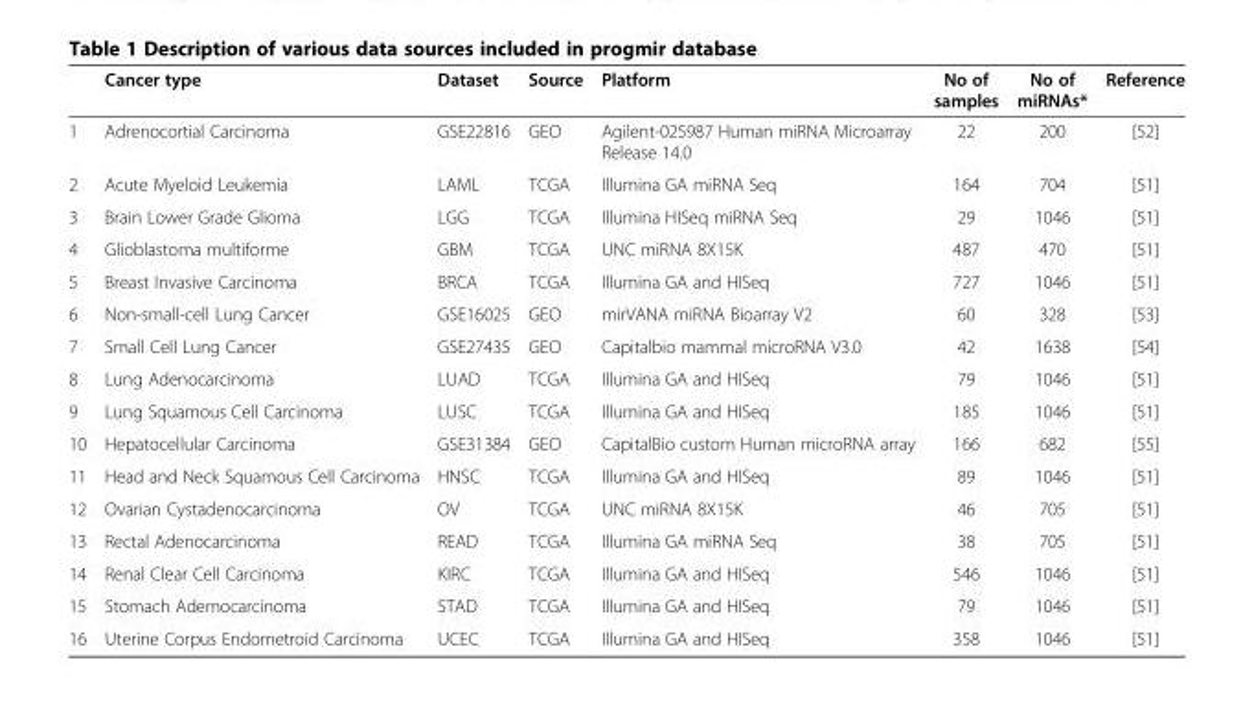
<table><thead><tr><td></td><td>Cancer type</td><td>Dataset</td><td>Source</td><td>Platform</td><td>No of samples</td><td>No of miRNAs*</td><td>Reference</td></tr></thead><tbody><tr><td>1</td><td>Adrenocortial Carcinoma</td><td>GSE22816</td><td>GEO</td><td>Agilent-025987 Human miRNA Microarray Release 14.0</td><td>22</td><td>200</td><td>[52]</td></tr><tr><td>2</td><td>Acute Myeloid Leukemia</td><td>LAML</td><td>TCGA</td><td>Illumina GA miRNA Seq</td><td>164</td><td>704</td><td>[51]</td></tr><tr><td>3</td><td>Brain Lower Grade Glioma</td><td>LGG</td><td>TCGA</td><td>Illumina HISeq miRNA Seq</td><td>29</td><td>1046</td><td>[51]</td></tr><tr><td>4</td><td>Glioblastoma multiforme</td><td>GBM</td><td>TCGA</td><td>UNC miRNA 8X15K</td><td>487</td><td>470</td><td>[51]</td></tr><tr><td>5</td><td>Breast Invasive Carcinoma</td><td>BRCA</td><td>TCGA</td><td>Illumina GA and HISeq</td><td>727</td><td>1046</td><td>[51]</td></tr><tr><td>6</td><td>Non-small-cell Lung Cancer</td><td>GSE16025</td><td>GEO</td><td>mirVANA miRNA Bioarray V2</td><td>60</td><td>328</td><td>[53]</td></tr><tr><td>7</td><td>Small Cell Lung Cancer</td><td>GSE27435</td><td>GEO</td><td>Capitalbio mammal microRNA V3.0</td><td>42</td><td>1638</td><td>[54]</td></tr><tr><td>8</td><td>Lung Adenocarcinoma</td><td>LUAD</td><td>TCGA</td><td>Illumina GA and HISeq</td><td>79</td><td>1046</td><td>[51]</td></tr><tr><td>9</td><td>Lung Squamous Cell Carcinoma</td><td>LUSC</td><td>TCGA</td><td>Illumina GA and HISeq</td><td>185</td><td>1046</td><td>[51]</td></tr><tr><td>10</td><td>Hepatocellular Carcinoma</td><td>GSE31384</td><td>GEO</td><td>CapitalBio custom Human microRNA array</td><td>166</td><td>682</td><td>[55]</td></tr><tr><td>11</td><td>Head and Neck Squamous Cell Carcinoma</td><td>HNSC</td><td>TCGA</td><td>Illumina GA and HISeq</td><td>89</td><td>1046</td><td>[51]</td></tr><tr><td>12</td><td>Ovarian Cystadenocarcinoma</td><td>OV</td><td>TCGA</td><td>UNC miRNA 8X15K</td><td>46</td><td>705</td><td>[51]</td></tr><tr><td>13</td><td>Rectal Adenocarcinoma</td><td>READ</td><td>TCGA</td><td>Illumina GA miRNA Seq</td><td>38</td><td>705</td><td>[51]</td></tr><tr><td>14</td><td>Renal Clear Cell Carcinoma</td><td>KIRC</td><td>TCGA</td><td>Illumina GA and HISeq</td><td>546</td><td>1046</td><td>[51]</td></tr><tr><td>15</td><td>Stomach Ademocarcinoma</td><td>STAD</td><td>TCGA</td><td>Illumina GA and HISeq</td><td>79</td><td>1046</td><td>[51]</td></tr><tr><td>16</td><td>Uterine Corpus Endometroid Carcinoma</td><td>UCEC</td><td>TCGA</td><td>Illumina GA and HISeq</td><td>358</td><td>1046</td><td>[51]</td></tr></tbody></table>